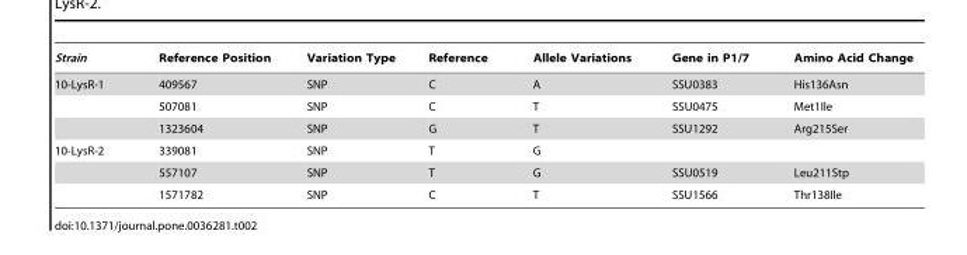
<table><thead><tr><td>Strain</td><td>Reference Position</td><td>Variation Type</td><td>Reference</td><td>Allele Variations</td><td>Gene in P1/7</td><td>Amino Acid Change</td></tr></thead><tbody><tr><td rowspan="3">10-LysR-1</td><td>409567</td><td>SNP</td><td>C</td><td>A</td><td>SSU0383</td><td>His136Asn</td></tr><tr><td>507081</td><td>SNP</td><td>C</td><td>T</td><td>SSU0475</td><td>Met1Ile</td></tr><tr><td>1323604</td><td>SNP</td><td>G</td><td>T</td><td>SSU1292</td><td>Arg215Ser</td></tr><tr><td rowspan="3">10-LysR-2</td><td>339081</td><td>SNP</td><td>T</td><td>G</td><td></td><td></td></tr><tr><td>557107</td><td>SNP</td><td>T</td><td>G</td><td>SSU0519</td><td>Leu211Stp</td></tr><tr><td>1571782</td><td>SNP</td><td>C</td><td>T</td><td>SSU1566</td><td>Thr138Ile</td></tr></tbody></table>